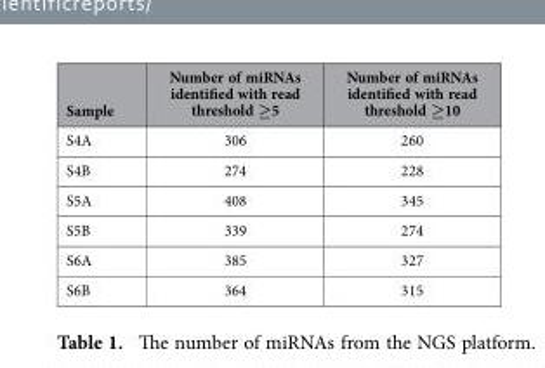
<table><thead><tr><td>Sample</td><td>Number of miRNAs identified with read threshold ≥5</td><td>Number of miRNAs identified with read threshold ≥10</td></tr></thead><tbody><tr><td>S4A</td><td>306</td><td>260</td></tr><tr><td>S4B</td><td>274</td><td>228</td></tr><tr><td>S5A</td><td>408</td><td>345</td></tr><tr><td>S5B</td><td>339</td><td>274</td></tr><tr><td>S6A</td><td>385</td><td>327</td></tr><tr><td>S6B</td><td>364</td><td>315</td></tr></tbody></table>